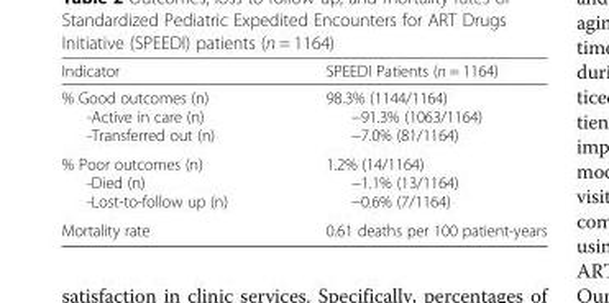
<table><thead><tr><td>Indicator</td><td>SPEEDI Patients (n = 1164)</td></tr></thead><tbody><tr><td>% Good outcomes (n) -Active in care (n) -Transferred out (n)</td><td>98.3% (1144/1164) −91.3% (1063/1164) −7.0% (81/1164)</td></tr><tr><td>% Poor outcomes (n) -Died (n) -Lost-to-follow up (n)</td><td>1.2% (14/1164) −1.1% (13/1164) −0.6% (7/1164)</td></tr><tr><td>Mortality rate</td><td>0.61 deaths per 100 patient-years</td></tr></tbody></table>